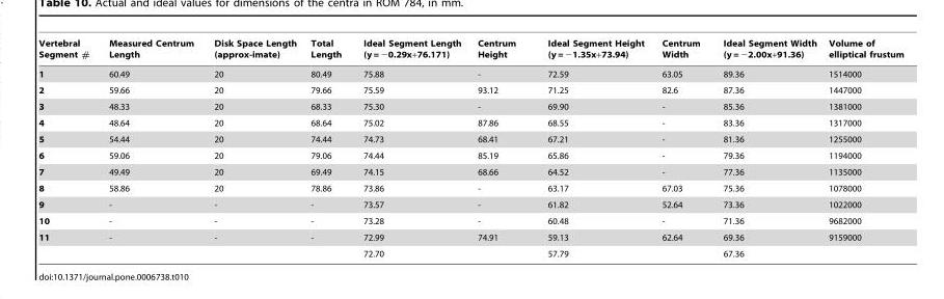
<table><thead><tr><td>Vertebral Segment #</td><td>Measured Centrum Length</td><td>Disk Space Length (approx-imate)</td><td>Total Length</td><td>Ideal Segment Length (y = −0.29x+76.171)</td><td>Centrum Height</td><td>Ideal Segment Height (y = −1.35x+73.94)</td><td>Centrum Width</td><td>Ideal Segment Width (y = −2.00x+91.36)</td><td>Volume of elliptical frustum</td></tr></thead><tbody><tr><td>1</td><td>60.49</td><td>20</td><td>80.49</td><td>75.88</td><td>-</td><td>72.59</td><td>63.05</td><td>89.36</td><td>1514000</td></tr><tr><td>2</td><td>59.66</td><td>20</td><td>79.66</td><td>75.59</td><td>93.12</td><td>71.25</td><td>82.6</td><td>87.36</td><td>1447000</td></tr><tr><td>3</td><td>48.33</td><td>20</td><td>68.33</td><td>75.30</td><td>-</td><td>69.90</td><td>-</td><td>85.36</td><td>1381000</td></tr><tr><td>4</td><td>48.64</td><td>20</td><td>68.64</td><td>75.02</td><td>87.86</td><td>68.55</td><td>-</td><td>83.36</td><td>1317000</td></tr><tr><td>5</td><td>54.44</td><td>20</td><td>74.44</td><td>74.73</td><td>68.41</td><td>67.21</td><td>-</td><td>81.36</td><td>1255000</td></tr><tr><td>6</td><td>59.06</td><td>20</td><td>79.06</td><td>74.44</td><td>85.19</td><td>65.86</td><td>-</td><td>79.36</td><td>1194000</td></tr><tr><td>7</td><td>49.49</td><td>20</td><td>69.49</td><td>74.15</td><td>68.66</td><td>64.52</td><td>-</td><td>77.36</td><td>1135000</td></tr><tr><td>8</td><td>58.86</td><td>20</td><td>78.86</td><td>73.86</td><td>-</td><td>63.17</td><td>67.03</td><td>75.36</td><td>1078000</td></tr><tr><td>9</td><td>-</td><td>-</td><td>-</td><td>73.57</td><td>-</td><td>61.82</td><td>52.64</td><td>73.36</td><td>1022000</td></tr><tr><td>10</td><td>-</td><td>-</td><td>-</td><td>73.28</td><td>-</td><td>60.48</td><td>-</td><td>71.36</td><td>9682000</td></tr><tr><td rowspan="2">11</td><td>-</td><td>-</td><td>-</td><td>72.99</td><td>74.91</td><td>59.13</td><td>62.64</td><td>69.36</td><td>9159000</td></tr><tr><td></td><td></td><td></td><td>72.70</td><td></td><td>57.79</td><td></td><td>67.36</td><td></td></tr></tbody></table>